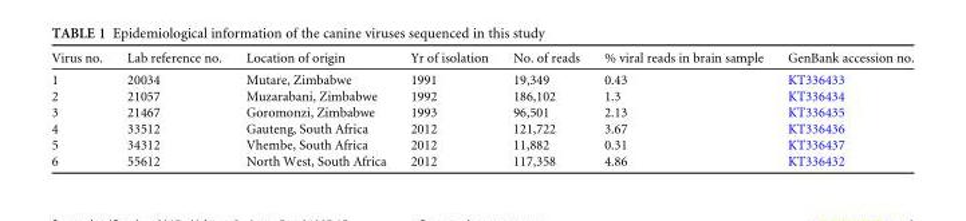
<table><thead><tr><td>Virus no.</td><td>Lab reference no.</td><td>Location of origin</td><td>Yr of isolation</td><td>No. of reads</td><td>% viral reads in brain sample</td><td>GenBank accession no.</td></tr></thead><tbody><tr><td>1</td><td>20034</td><td>Mutare, Zimbabwe</td><td>1991</td><td>19,349</td><td>0.43</td><td>KT336433</td></tr><tr><td>2</td><td>21057</td><td>Muzarabani, Zimbabwe</td><td>1992</td><td>186,102</td><td>1.3</td><td>KT336434</td></tr><tr><td>3</td><td>21467</td><td>Goromonzi, Zimbabwe</td><td>1993</td><td>96,501</td><td>2.13</td><td>KT336435</td></tr><tr><td>4</td><td>33512</td><td>Gauteng, South Africa</td><td>2012</td><td>121,722</td><td>3.67</td><td>KT336436</td></tr><tr><td>5</td><td>34312</td><td>Vhembe, South Africa</td><td>2012</td><td>11,882</td><td>0.31</td><td>KT336437</td></tr><tr><td>6</td><td>55612</td><td>North West, South Africa</td><td>2012</td><td>117,358</td><td>4.86</td><td>KT336432</td></tr></tbody></table>